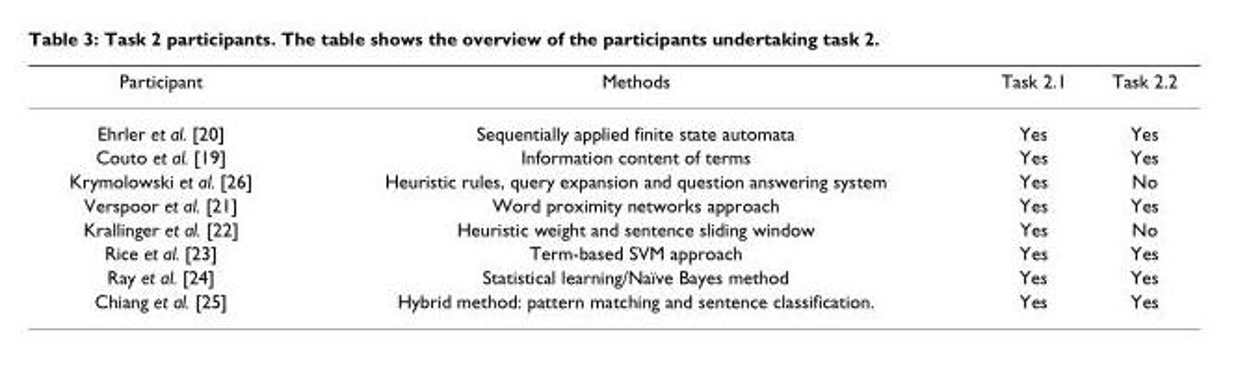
<table><thead><tr><td>Participant</td><td>Methods</td><td>Task 2.1</td><td>Task 2.2</td></tr></thead><tbody><tr><td>Ehrler et al. [20]</td><td>Sequentially applied finite state automata</td><td>Yes</td><td>Yes</td></tr><tr><td>Couto et al. [19]</td><td>Information content of terms</td><td>Yes</td><td>Yes</td></tr><tr><td>Krymolowski et al. [26]</td><td>Heuristic rules, query expansion and question answering system</td><td>Yes</td><td>No</td></tr><tr><td>Verspoor et al. [21]</td><td>Word proximity networks approach</td><td>Yes</td><td>Yes</td></tr><tr><td>Krallinger et al. [22]</td><td>Heuristic weight and sentence sliding window</td><td>Yes</td><td>No</td></tr><tr><td>Rice et al. [23]</td><td>Term-based SVM approach</td><td>Yes</td><td>Yes</td></tr><tr><td>Ray et al. [24]</td><td>Statistical learning/Naïve Bayes method</td><td>Yes</td><td>Yes</td></tr><tr><td>Chiang et al. [25]</td><td>Hybrid method: pattern matching and sentence classification.</td><td>Yes</td><td>Yes</td></tr></tbody></table>